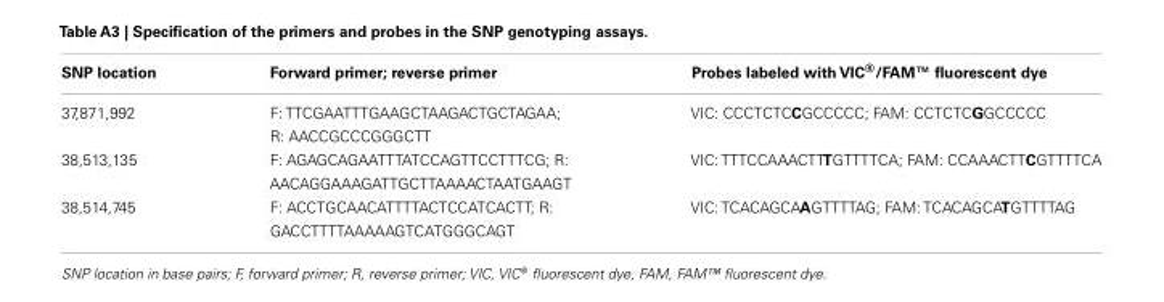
<table><thead><tr><td>SNP location</td><td>Forward primer; reverse primer</td><td>Probes labeled with VIC<sup>®</sup>/FAM<sup>™</sup> fluorescent dye</td></tr></thead><tbody><tr><td>37,871,992</td><td>F: TTCGAATTTGAAGCTAAGACTGCTAGAA; R: AACCGCCCGGGCTT</td><td>VIC: CCCTCTCCGCCCCC; FAM: CCTCTCGGCCCCC</td></tr><tr><td>38,513,135</td><td>F: AGAGCAGAATTTATCCAGTTCCTTTCG; R: AACAGGAAAGATTGCTTAAAACTAATGAAGT</td><td>VIC: TTTCCAAACTTTGTTTTCA; FAM: CCAAACTTCGTTTTCA</td></tr><tr><td>38,514,745</td><td>F: ACCTGCAACATTTTACTCCATCACTT; R: GACCTTTTAAAAAGTCATGGGCAGT</td><td>VIC: TCACAGCAAGTTTTAG; FAM: TCACAGCATGTTTTAG</td></tr></tbody></table>